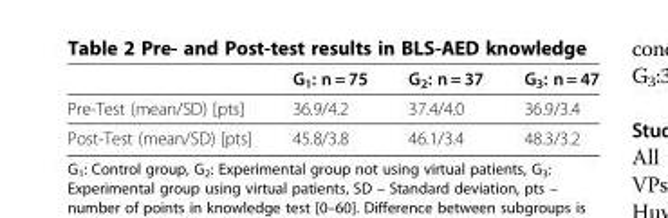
<table><thead><tr><td></td><td>G<sub>1</sub>: n = 75</td><td>G<sub>2</sub>: n = 37</td><td>G<sub>3</sub>: n = 47</td></tr></thead><tbody><tr><td>Pre-Test (mean/SD) [pts]</td><td>36.9/4.2</td><td>37.4/4.0</td><td>36.9/3.4</td></tr><tr><td>Post-Test (mean/SD) [pts]</td><td>45.8/3.8</td><td>46.1/3.4</td><td>48.3/3.2</td></tr></tbody></table>